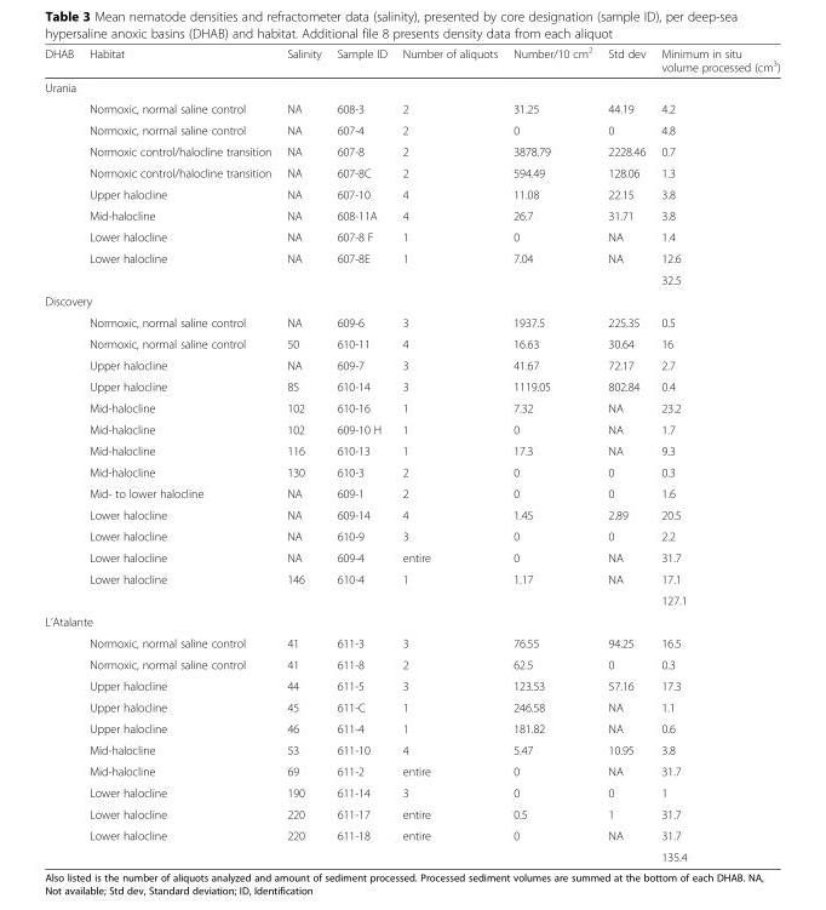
<table><thead><tr><td>DHAB</td><td>Habitat</td><td>Salinity</td><td>Sample ID</td><td>Number of aliquots</td><td>Number/10 cm<sup>2</sup></td><td>Std dev</td><td>Minimum in situ volume processed (cm<sup>3</sup>)</td></tr></thead><tbody><tr><td colspan="8">Urania</td></tr><tr><td></td><td>Normoxic, normal saline control</td><td>NA</td><td>608-3</td><td>2</td><td>31.25</td><td>44.19</td><td>4.2</td></tr><tr><td></td><td>Normoxic, normal saline control</td><td>NA</td><td>607-4</td><td>2</td><td>0</td><td>0</td><td>4.8</td></tr><tr><td></td><td>Normoxic control/halocline transition</td><td>NA</td><td>607-8</td><td>2</td><td>3878.79</td><td>2228.46</td><td>0.7</td></tr><tr><td></td><td>Normoxic control/halocline transition</td><td>NA</td><td>607-8C</td><td>2</td><td>594.49</td><td>128.06</td><td>1.3</td></tr><tr><td></td><td>Upper halocline</td><td>NA</td><td>607-10</td><td>4</td><td>11.08</td><td>22.15</td><td>3.8</td></tr><tr><td></td><td>Mid-halocline</td><td>NA</td><td>608-11A</td><td>4</td><td>26.7</td><td>31.71</td><td>3.8</td></tr><tr><td></td><td>Lower halocline</td><td>NA</td><td>607-8 F</td><td>1</td><td>0</td><td>NA</td><td>1.4</td></tr><tr><td></td><td>Lower halocline</td><td>NA</td><td>607-8E</td><td>1</td><td>7.04</td><td>NA</td><td>12.6</td></tr><tr><td></td><td></td><td></td><td></td><td></td><td></td><td></td><td>32.5</td></tr><tr><td colspan="8">Discovery</td></tr><tr><td></td><td>Normoxic, normal saline control</td><td>NA</td><td>609-6</td><td>3</td><td>1937.5</td><td>225.35</td><td>0.5</td></tr><tr><td></td><td>Normoxic, normal saline control</td><td>50</td><td>610-11</td><td>4</td><td>16.63</td><td>30.64</td><td>16</td></tr><tr><td></td><td>Upper halocline</td><td>NA</td><td>609-7</td><td>3</td><td>41.67</td><td>72.17</td><td>2.7</td></tr><tr><td></td><td>Upper halocline</td><td>85</td><td>610-14</td><td>3</td><td>1119.05</td><td>802.84</td><td>0.4</td></tr><tr><td></td><td>Mid-halocline</td><td>102</td><td>610-16</td><td>1</td><td>7.32</td><td>NA</td><td>23.2</td></tr><tr><td></td><td>Mid-halocline</td><td>102</td><td>609-10 H</td><td>1</td><td>0</td><td>NA</td><td>1.7</td></tr><tr><td></td><td>Mid-halocline</td><td>116</td><td>610-13</td><td>1</td><td>17.3</td><td>NA</td><td>9.3</td></tr><tr><td></td><td>Mid-halocline</td><td>130</td><td>610-3</td><td>2</td><td>0</td><td>0</td><td>0.3</td></tr><tr><td></td><td>Mid- to lower halocline</td><td>NA</td><td>609-1</td><td>2</td><td>0</td><td>0</td><td>1.6</td></tr><tr><td></td><td>Lower halocline</td><td>NA</td><td>609-14</td><td>4</td><td>1.45</td><td>2.89</td><td>20.5</td></tr><tr><td></td><td>Lower halocline</td><td>NA</td><td>610-9</td><td>3</td><td>0</td><td>0</td><td>2.2</td></tr><tr><td></td><td>Lower halocline</td><td>NA</td><td>609-4</td><td>entire</td><td>0</td><td>NA</td><td>31.7</td></tr><tr><td></td><td>Lower halocline</td><td>146</td><td>610-4</td><td>1</td><td>1.17</td><td>NA</td><td>17.1</td></tr><tr><td></td><td></td><td></td><td></td><td></td><td></td><td></td><td>127.1</td></tr><tr><td colspan="8">L’Atalante</td></tr><tr><td></td><td>Normoxic, normal saline control</td><td>41</td><td>611-3</td><td>3</td><td>76.55</td><td>94.25</td><td>16.5</td></tr><tr><td></td><td>Normoxic, normal saline control</td><td>41</td><td>611-8</td><td>2</td><td>62.5</td><td>0</td><td>0.3</td></tr><tr><td></td><td>Upper halocline</td><td>44</td><td>611-5</td><td>3</td><td>123.53</td><td>57.16</td><td>17.3</td></tr><tr><td></td><td>Upper halocline</td><td>45</td><td>611-C</td><td>1</td><td>246.58</td><td>NA</td><td>1.1</td></tr><tr><td></td><td>Upper halocline</td><td>46</td><td>611-4</td><td>1</td><td>181.82</td><td>NA</td><td>0.6</td></tr><tr><td></td><td>Mid-halocline</td><td>53</td><td>611-10</td><td>4</td><td>5.47</td><td>10.95</td><td>3.8</td></tr><tr><td></td><td>Mid-halocline</td><td>69</td><td>611-2</td><td>entire</td><td>0</td><td>NA</td><td>31.7</td></tr><tr><td></td><td>Lower halocline</td><td>190</td><td>611-14</td><td>3</td><td>0</td><td>0</td><td>1</td></tr><tr><td></td><td>Lower halocline</td><td>220</td><td>611-17</td><td>entire</td><td>0.5</td><td>1</td><td>31.7</td></tr><tr><td></td><td>Lower halocline</td><td>220</td><td>611-18</td><td>entire</td><td>0</td><td>NA</td><td>31.7</td></tr><tr><td></td><td></td><td></td><td></td><td></td><td></td><td></td><td>135.4</td></tr></tbody></table>